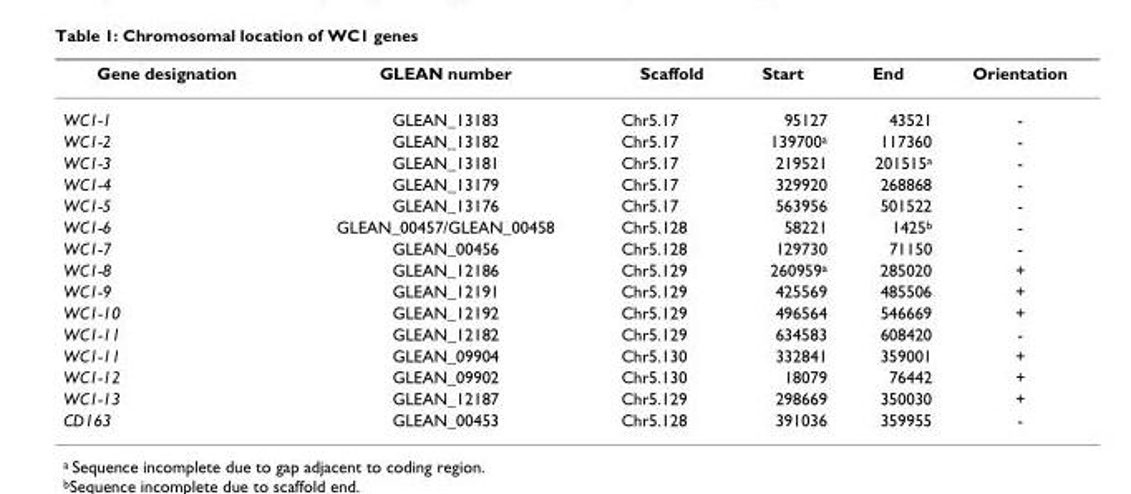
<table><thead><tr><td>Gene designation</td><td>GLEAN number</td><td>Scaffold</td><td>Start</td><td>End</td><td>Orientation</td></tr></thead><tbody><tr><td>WC1-1</td><td>GLEAN_13183</td><td>Chr5.17</td><td>95127</td><td>43521</td><td>-</td></tr><tr><td>WC1-2</td><td>GLEAN_13182</td><td>Chr5.17</td><td>139700<sup>a</sup></td><td>117360</td><td>-</td></tr><tr><td>WC1-3</td><td>GLEAN_13181</td><td>Chr5.17</td><td>219521</td><td>201515<sup>a</sup></td><td>-</td></tr><tr><td>WC1-4</td><td>GLEAN_13179</td><td>Chr5.17</td><td>329920</td><td>268868</td><td>-</td></tr><tr><td>WC1-5</td><td>GLEAN_13176</td><td>Chr5.17</td><td>563956</td><td>501522</td><td>-</td></tr><tr><td>WC1-6</td><td>GLEAN_00457/GLEAN_00458</td><td>Chr5.128</td><td>58221</td><td>1425<sup>b</sup></td><td>-</td></tr><tr><td>WC1-7</td><td>GLEAN_00456</td><td>Chr5.128</td><td>129730</td><td>71150</td><td>-</td></tr><tr><td>WC1-8</td><td>GLEAN_12186</td><td>Chr5.129</td><td>260959<sup>a</sup></td><td>285020</td><td>+</td></tr><tr><td>WC1-9</td><td>GLEAN_12191</td><td>Chr5.129</td><td>425569</td><td>485506</td><td>+</td></tr><tr><td>WC1-10</td><td>GLEAN_12192</td><td>Chr5.129</td><td>496564</td><td>546669</td><td>+</td></tr><tr><td>WC1-11</td><td>GLEAN_12182</td><td>Chr5.129</td><td>634583</td><td>608420</td><td>-</td></tr><tr><td>WC1-11</td><td>GLEAN_09904</td><td>Chr5.130</td><td>332841</td><td>359001</td><td>+</td></tr><tr><td>WC1-12</td><td>GLEAN_09902</td><td>Chr5.130</td><td>18079</td><td>76442</td><td>+</td></tr><tr><td>WC1-13</td><td>GLEAN_12187</td><td>Chr5.129</td><td>298669</td><td>350030</td><td>+</td></tr><tr><td>CD163</td><td>GLEAN_00453</td><td>Chr5.128</td><td>391036</td><td>359955</td><td>-</td></tr></tbody></table>